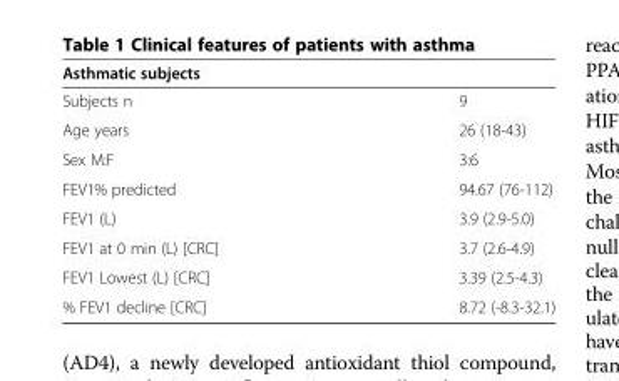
<table><thead><tr><td>Asthmatic subjects</td><td></td></tr></thead><tbody><tr><td>Subjects n</td><td>9</td></tr><tr><td>Age years</td><td>26 (18-43)</td></tr><tr><td>Sex M:F</td><td>3:6</td></tr><tr><td>FEV1% predicted</td><td>94.67 (76-112)</td></tr><tr><td>FEV1 (L)</td><td>3.9 (2.9-5.0)</td></tr><tr><td>FEV1 at 0 min (L) [CRC]</td><td>3.7 (2.6-4.9)</td></tr><tr><td>FEV1 Lowest (L) [CRC]</td><td>3.39 (2.5-4.3)</td></tr><tr><td>% FEV1 decline [CRC]</td><td>8.72 (-8.3-32.1)</td></tr></tbody></table>